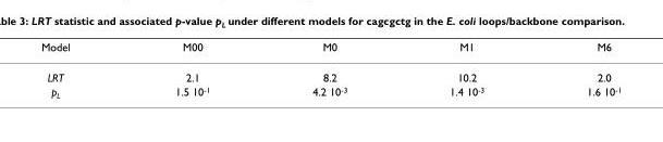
<table><thead><tr><td>Model</td><td>M00</td><td>M0</td><td>M1</td><td>M6</td></tr></thead><tbody><tr><td>LRT</td><td>2.1</td><td>8.2</td><td>10.2</td><td>2.0</td></tr><tr><td>p<sub>L</sub></td><td>1.5 10<sup>-1</sup></td><td>4.2 10<sup>-3</sup></td><td>1.4 10<sup>-3</sup></td><td>1.6 10<sup>-1</sup></td></tr></tbody></table>